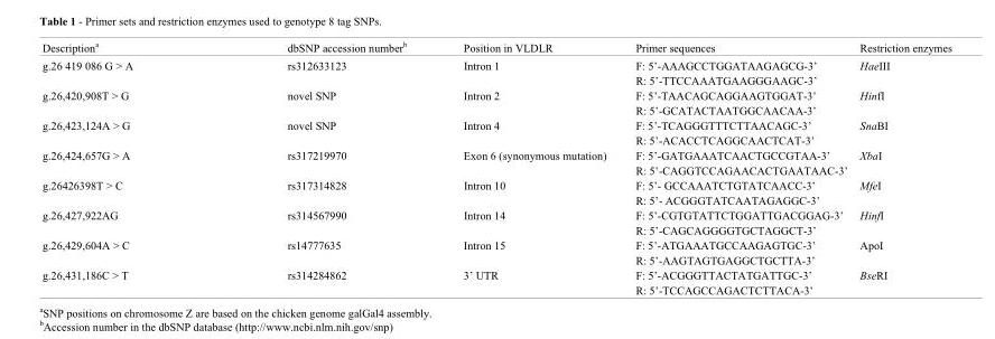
<table><thead><tr><td>Description<sup>a</sup></td><td>dbSNP accession number<sup>b</sup></td><td>Position in VLDLR</td><td>Primer sequences</td><td>Restriction enzymes</td></tr></thead><tbody><tr><td rowspan="2">g.26 419 086 G &gt; A</td><td>rs312633123</td><td>Intron 1</td><td>F: 5’-AAAGCCTGGATAAGAGCG-3’</td><td>HaeIII</td></tr><tr><td></td><td></td><td>R: 5’-TTCCAAATGAAGGGAAGC-3’</td><td></td></tr><tr><td rowspan="2">g.26,420,908T &gt; G</td><td>novel SNP</td><td>Intron 2</td><td>F: 5’-TAACAGCAGGAAGTGGAT-3’</td><td>HinfI</td></tr><tr><td></td><td></td><td>R: 5’-GCATACTAATGGCAACAA-3’</td><td></td></tr><tr><td rowspan="2">g.26,423,124A &gt; G</td><td>novel SNP</td><td>Intron 4</td><td>F: 5’-TCAGGGTTTCTTAACAGC-3’</td><td>SnaBI</td></tr><tr><td></td><td></td><td>R: 5’-ACACCTCAGGCAACTCAT-3’</td><td></td></tr><tr><td rowspan="2">g.26,424,657G &gt; A</td><td>rs317219970</td><td>Exon 6 (synonymous mutation)</td><td>F: 5’-GATGAAATCAACTGCCGTAA-3’</td><td>XbaI</td></tr><tr><td></td><td></td><td>R: 5’-CAGGTCCAGAACACTGAATAAC-3’</td><td></td></tr><tr><td rowspan="2">g.26426398T &gt; C</td><td>rs317314828</td><td>Intron 10</td><td>F: 5’- GCCAAATCTGTATCAACC-3’</td><td>MfeI</td></tr><tr><td></td><td></td><td>R: 5’- ACGGGTATCAATAGAGGC-3’</td><td></td></tr><tr><td rowspan="2">g.26,427,922AG</td><td>rs314567990</td><td>Intron 14</td><td>F: 5’-CGTGTATTCTGGATTGACGGAG-3’</td><td>HinfI</td></tr><tr><td></td><td></td><td>R: 5’-CAGCAGGGGTGCTAGGCT-3’</td><td></td></tr><tr><td rowspan="2">g.26,429,604A &gt; C</td><td>rs14777635</td><td>Intron 15</td><td>F: 5’-ATGAAATGCCAAGAGTGC-3’</td><td>ApoI</td></tr><tr><td></td><td></td><td>R: 5’-AAGTAGTGAGGCTGCTTA-3’</td><td></td></tr><tr><td rowspan="2">g.26,431,186C &gt; T</td><td>rs314284862</td><td>3’ UTR</td><td>F: 5’-ACGGGTTACTATGATTGC-3’</td><td>BseRI</td></tr><tr><td></td><td></td><td>R: 5’-TCCAGCCAGACTCTTACA-3’</td><td></td></tr></tbody></table>